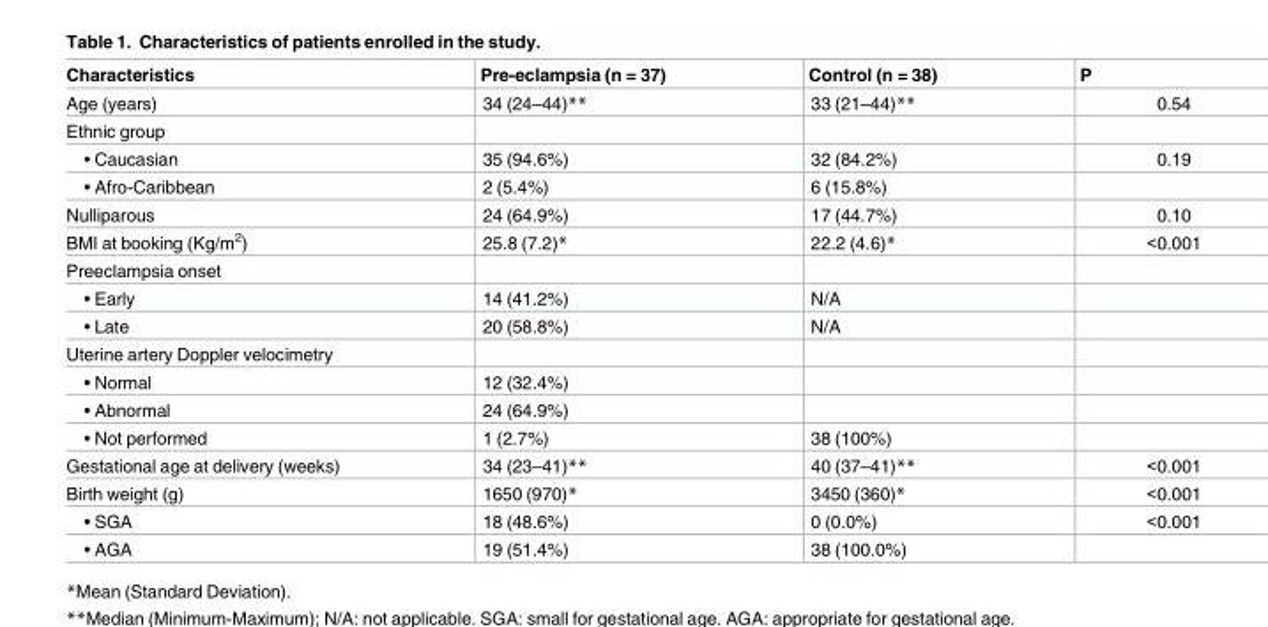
<table><thead><tr><td>Characteristics</td><td>Pre-eclampsia (n = 37)</td><td>Control (n = 38)</td><td>P</td></tr></thead><tbody><tr><td>Age (years)</td><td>34 (24–44)**</td><td>33 (21–44)**</td><td>0.54</td></tr><tr><td colspan="4">Ethnic group</td></tr><tr><td>• Caucasian</td><td>35 (94.6%)</td><td>32 (84.2%)</td><td>0.19</td></tr><tr><td>• Afro-Caribbean</td><td>2 (5.4%)</td><td>6 (15.8%)</td><td></td></tr><tr><td>Nulliparous</td><td>24 (64.9%)</td><td>17 (44.7%)</td><td>0.10</td></tr><tr><td>BMI at booking (Kg/m<sup>2</sup>)</td><td>25.8 (7.2)*</td><td>22.2 (4.6)*</td><td>&lt;0.001</td></tr><tr><td colspan="4">Preeclampsia onset</td></tr><tr><td>• Early</td><td>14 (41.2%)</td><td>N/A</td><td></td></tr><tr><td>• Late</td><td>20 (58.8%)</td><td>N/A</td><td></td></tr><tr><td colspan="4">Uterine artery Doppler velocimetry</td></tr><tr><td>• Normal</td><td>12 (32.4%)</td><td></td><td></td></tr><tr><td>• Abnormal</td><td>24 (64.9%)</td><td></td><td></td></tr><tr><td>• Not performed</td><td>1 (2.7%)</td><td>38 (100%)</td><td></td></tr><tr><td>Gestational age at delivery (weeks)</td><td>34 (23–41)**</td><td>40 (37–41)**</td><td>&lt;0.001</td></tr><tr><td>Birth weight (g)</td><td>1650 (970)*</td><td>3450 (360)*</td><td>&lt;0.001</td></tr><tr><td>• SGA</td><td>18 (48.6%)</td><td>0 (0.0%)</td><td>&lt;0.001</td></tr><tr><td>• AGA</td><td>19 (51.4%)</td><td>38 (100.0%)</td><td></td></tr></tbody></table>